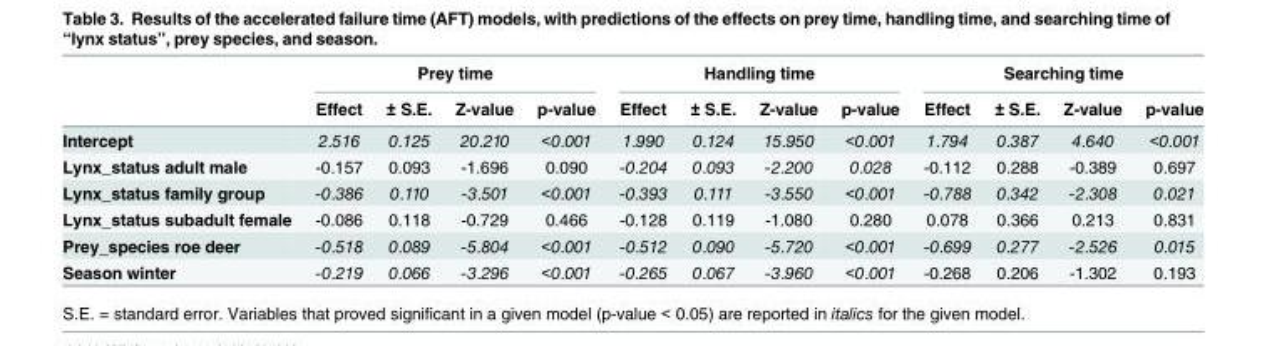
<table><thead><tr><td rowspan="2"></td><td colspan="4">Prey time</td><td colspan="4">Handling time</td><td colspan="4">Searching time</td></tr><tr><td>Effect</td><td>± S.E.</td><td>Z-value</td><td>p-value</td><td>Effect</td><td>± S.E.</td><td>Z-value</td><td>p-value</td><td>Effect</td><td>± S.E.</td><td>Z-value</td><td>p-value</td></tr></thead><tbody><tr><td>Intercept</td><td>2.516</td><td>0.125</td><td>20.210</td><td>&lt;0.001</td><td>1.990</td><td>0.124</td><td>15.950</td><td>&lt;0.001</td><td>1.794</td><td>0.387</td><td>4.640</td><td>&lt;0.001</td></tr><tr><td>Lynx_status adult male</td><td>-0.157</td><td>0.093</td><td>-1.696</td><td>0.090</td><td>-0.204</td><td>0.093</td><td>-2.200</td><td>0.028</td><td>-0.112</td><td>0.288</td><td>-0.389</td><td>0.697</td></tr><tr><td>Lynx_status family group</td><td>-0.386</td><td>0.110</td><td>-3.501</td><td>&lt;0.001</td><td>-0.393</td><td>0.111</td><td>-3.550</td><td>&lt;0.001</td><td>-0.788</td><td>0.342</td><td>-2.308</td><td>0.021</td></tr><tr><td>Lynx_status subadult female</td><td>-0.086</td><td>0.118</td><td>-0.729</td><td>0.466</td><td>-0.128</td><td>0.119</td><td>-1.080</td><td>0.280</td><td>0.078</td><td>0.366</td><td>0.213</td><td>0.831</td></tr><tr><td>Prey_species roe deer</td><td>-0.518</td><td>0.089</td><td>-5.804</td><td>&lt;0.001</td><td>-0.512</td><td>0.090</td><td>-5.720</td><td>&lt;0.001</td><td>-0.699</td><td>0.277</td><td>-2.526</td><td>0.015</td></tr><tr><td>Season winter</td><td>-0.219</td><td>0.066</td><td>-3.296</td><td>&lt;0.001</td><td>-0.265</td><td>0.067</td><td>-3.960</td><td>&lt;0.001</td><td>-0.268</td><td>0.206</td><td>-1.302</td><td>0.193</td></tr></tbody></table>